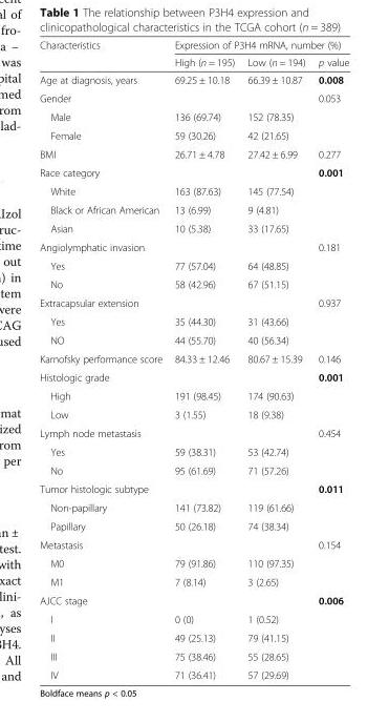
<table><thead><tr><td rowspan="2">Characteristics</td><td colspan="3">Expression of P3H4 mRNA, number (%)</td></tr><tr><td>High (n = 195)</td><td>Low (n = 194)</td><td>p value</td></tr></thead><tbody><tr><td>Age at diagnosis, years</td><td>69.25 ± 10.18</td><td>66.39 ± 10.87</td><td>0.008</td></tr><tr><td colspan="3">Gender</td><td>0.053</td></tr><tr><td>Male</td><td>136 (69.74)</td><td>152 (78.35)</td><td></td></tr><tr><td>Female</td><td>59 (30.26)</td><td>42 (21.65)</td><td></td></tr><tr><td>BMI</td><td>26.71 ± 4.78</td><td>27.42 ± 6.99</td><td>0.277</td></tr><tr><td colspan="3">Race category</td><td>0.001</td></tr><tr><td>White</td><td>163 (87.63)</td><td>145 (77.54)</td><td></td></tr><tr><td>Black or African American</td><td>13 (6.99)</td><td>9 (4.81)</td><td></td></tr><tr><td>Asian</td><td>10 (5.38)</td><td>33 (17.65)</td><td></td></tr><tr><td colspan="3">Angiolymphatic invasion</td><td>0.181</td></tr><tr><td>Yes</td><td>77 (57.04)</td><td>64 (48.85)</td><td></td></tr><tr><td>No</td><td>58 (42.96)</td><td>67 (51.15)</td><td></td></tr><tr><td colspan="3">Extracapsular extension</td><td>0.937</td></tr><tr><td>Yes</td><td>35 (44.30)</td><td>31 (43.66)</td><td></td></tr><tr><td>NO</td><td>44 (55.70)</td><td>40 (56.34)</td><td></td></tr><tr><td>Karnofsky performance score</td><td>84.33 ± 12.46</td><td>80.67 ± 15.39</td><td>0.146</td></tr><tr><td colspan="3">Histologic grade</td><td>0.001</td></tr><tr><td>High</td><td>191 (98.45)</td><td>174 (90.63)</td><td></td></tr><tr><td>Low</td><td>3 (1.55)</td><td>18 (9.38)</td><td></td></tr><tr><td colspan="3">Lymph node metastasis</td><td>0.454</td></tr><tr><td>Yes</td><td>59 (38.31)</td><td>53 (42.74)</td><td></td></tr><tr><td>No</td><td>95 (61.69)</td><td>71 (57.26)</td><td></td></tr><tr><td colspan="3">Tumor histologic subtype</td><td>0.011</td></tr><tr><td>Non-papillary</td><td>141 (73.82)</td><td>119 (61.66)</td><td></td></tr><tr><td>Papillary</td><td>50 (26.18)</td><td>74 (38.34)</td><td></td></tr><tr><td colspan="3">Metastasis</td><td>0.154</td></tr><tr><td>M0</td><td>79 (91.86)</td><td>110 (97.35)</td><td></td></tr><tr><td>M1</td><td>7 (8.14)</td><td>3 (2.65)</td><td></td></tr><tr><td colspan="3">AJCC stage</td><td>0.006</td></tr><tr><td>I</td><td>0 (0)</td><td>1 (0.52)</td><td></td></tr><tr><td>II</td><td>49 (25.13)</td><td>79 (41.15)</td><td></td></tr><tr><td>III</td><td>75 (38.46)</td><td>55 (28.65)</td><td></td></tr><tr><td>IV</td><td>71 (36.41)</td><td>57 (29.69)</td><td></td></tr></tbody></table>